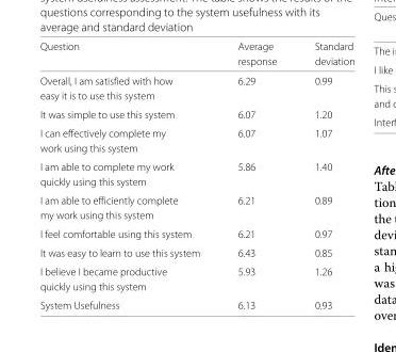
<table><thead><tr><td rowspan="2">Question</td><td rowspan="2">Average response</td><td rowspan="2">Standard deviation</td></tr><tr></tr></thead><tbody><tr><td>Overall, I am satisfied with how</td><td>6.29</td><td>0.99</td></tr><tr><td colspan="3">easy it is to use this system</td></tr><tr><td>It was simple to use this system</td><td>6.07</td><td>1.20</td></tr><tr><td>I can effectively complete my</td><td>6.07</td><td>1.07</td></tr><tr><td colspan="3">work using this system</td></tr><tr><td>I am able to complete my work</td><td>5.86</td><td>1.40</td></tr><tr><td colspan="3">quickly using this system</td></tr><tr><td>I am able to efficiently complete</td><td>6.21</td><td>0.89</td></tr><tr><td colspan="3">my work using this system</td></tr><tr><td>I feel comfortable using this system</td><td>6.21</td><td>0.97</td></tr><tr><td>It was easy to learn to use this system</td><td>6.43</td><td>0.85</td></tr><tr><td>I believe I became productive</td><td>5.93</td><td>1.26</td></tr><tr><td colspan="3">quickly using this system</td></tr><tr><td>System Usefulness</td><td>6.13</td><td>0.93</td></tr></tbody></table>